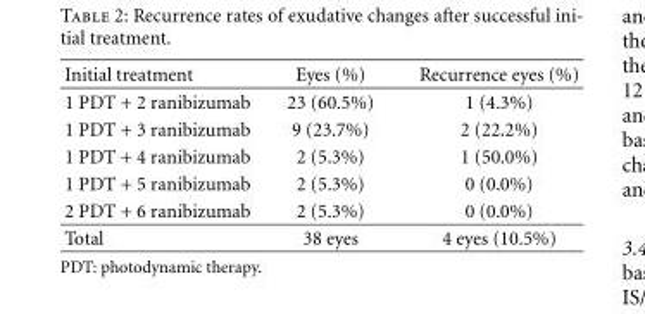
<table><thead><tr><td>Initial treatment</td><td>Eyes (%)</td><td>Recurrence eyes (%)</td></tr></thead><tbody><tr><td>1 PDT + 2 ranibizumab</td><td>23 (60.5%)</td><td>1 (4.3%)</td></tr><tr><td>1 PDT + 3 ranibizumab</td><td>9 (23.7%)</td><td>2 (22.2%)</td></tr><tr><td>1 PDT + 4 ranibizumab</td><td>2 (5.3%)</td><td>1 (50.0%)</td></tr><tr><td>1 PDT + 5 ranibizumab</td><td>2 (5.3%)</td><td>0 (0.0%)</td></tr><tr><td>2 PDT + 6 ranibizumab</td><td>2 (5.3%)</td><td>0 (0.0%)</td></tr><tr><td>Total</td><td>38 eyes</td><td>4 eyes (10.5%)</td></tr></tbody></table>